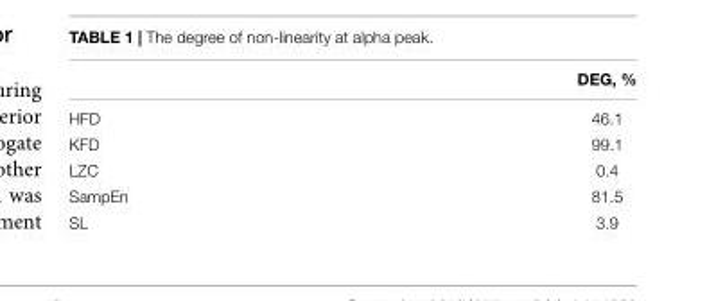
<table><thead><tr><td></td><td>DEG, %</td></tr></thead><tbody><tr><td>HFD</td><td>46.1</td></tr><tr><td>KFD</td><td>99.1</td></tr><tr><td>LZC</td><td>0.4</td></tr><tr><td>SampEn</td><td>81.5</td></tr><tr><td>SL</td><td>3.9</td></tr></tbody></table>